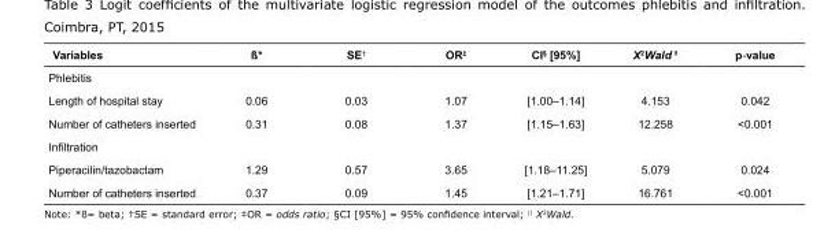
<table><tbody><tr><td>Variables</td><td>ß*</td><td>SE<sup>†</sup></td><td>OR<sup>‡</sup></td><td>CI<sup>§</sup> [95%]</td><td>X2Wald ǁ</td><td>p-value</td></tr><tr><td colspan="7">Phlebitis</td></tr><tr><td>Length of hospital stay</td><td>0.06</td><td>0.03</td><td>1.07</td><td>[1.00–1.14]</td><td>4.153</td><td>0.042</td></tr><tr><td>Number of catheters inserted</td><td>0.31</td><td>0.08</td><td>1.37</td><td>[1.15–1.63]</td><td>12.258</td><td>&lt;0.001</td></tr><tr><td colspan="7">Infiltration</td></tr><tr><td>Piperacilin/tazobactam</td><td>1.29</td><td>0.57</td><td>3.65</td><td>[1.18–11.25]</td><td>5.079</td><td>0.024</td></tr><tr><td>Number of catheters inserted</td><td>0.37</td><td>0.09</td><td>1.45</td><td>[1.21–1.71]</td><td>16.761</td><td>&lt;0.001</td></tr></tbody></table>